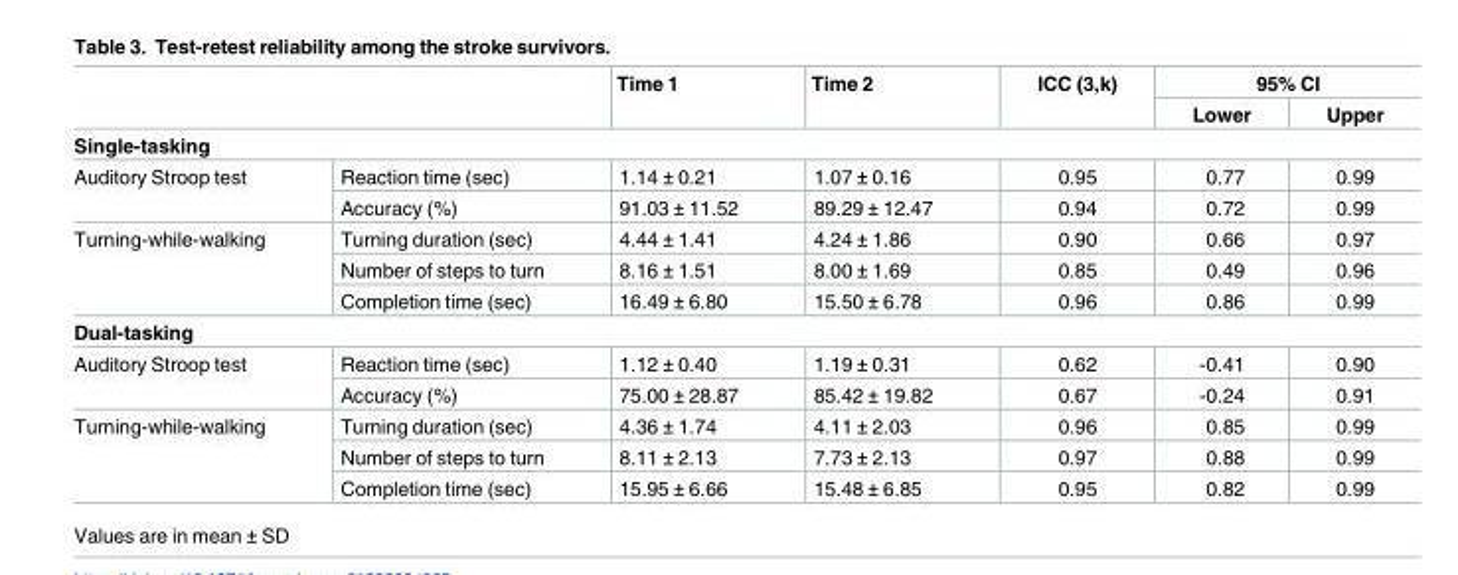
<table><thead><tr><td rowspan="2"></td><td rowspan="2"></td><td rowspan="2">Time 1</td><td rowspan="2">Time 2</td><td rowspan="2">ICC (3,k)</td><td colspan="2">95% CI</td></tr><tr><td>Lower</td><td>Upper</td></tr></thead><tbody><tr><td colspan="7">Single-tasking</td></tr><tr><td rowspan="2">Auditory Stroop test</td><td>Reaction time (sec)</td><td>1.14 ± 0.21</td><td>1.07 ± 0.16</td><td>0.95</td><td>0.77</td><td>0.99</td></tr><tr><td>Accuracy (%)</td><td>91.03 ± 11.52</td><td>89.29 ± 12.47</td><td>0.94</td><td>0.72</td><td>0.99</td></tr><tr><td rowspan="3">Turning-while-walking</td><td>Turning duration (sec)</td><td>4.44 ± 1.41</td><td>4.24 ± 1.86</td><td>0.90</td><td>0.66</td><td>0.97</td></tr><tr><td>Number of steps to turn</td><td>8.16 ± 1.51</td><td>8.00 ± 1.69</td><td>0.85</td><td>0.49</td><td>0.96</td></tr><tr><td>Completion time (sec)</td><td>16.49 ± 6.80</td><td>15.50 ± 6.78</td><td>0.96</td><td>0.86</td><td>0.99</td></tr><tr><td colspan="7">Dual-tasking</td></tr><tr><td rowspan="2">Auditory Stroop test</td><td>Reaction time (sec)</td><td>1.12 ± 0.40</td><td>1.19 ± 0.31</td><td>0.62</td><td>-0.41</td><td>0.90</td></tr><tr><td>Accuracy (%)</td><td>75.00 ± 28.87</td><td>85.42 ± 19.82</td><td>0.67</td><td>-0.24</td><td>0.91</td></tr><tr><td rowspan="3">Turning-while-walking</td><td>Turning duration (sec)</td><td>4.36 ± 1.74</td><td>4.11 ± 2.03</td><td>0.96</td><td>0.85</td><td>0.99</td></tr><tr><td>Number of steps to turn</td><td>8.11 ± 2.13</td><td>7.73 ± 2.13</td><td>0.97</td><td>0.88</td><td>0.99</td></tr><tr><td>Completion time (sec)</td><td>15.95 ± 6.66</td><td>15.48 ± 6.85</td><td>0.95</td><td>0.82</td><td>0.99</td></tr></tbody></table>